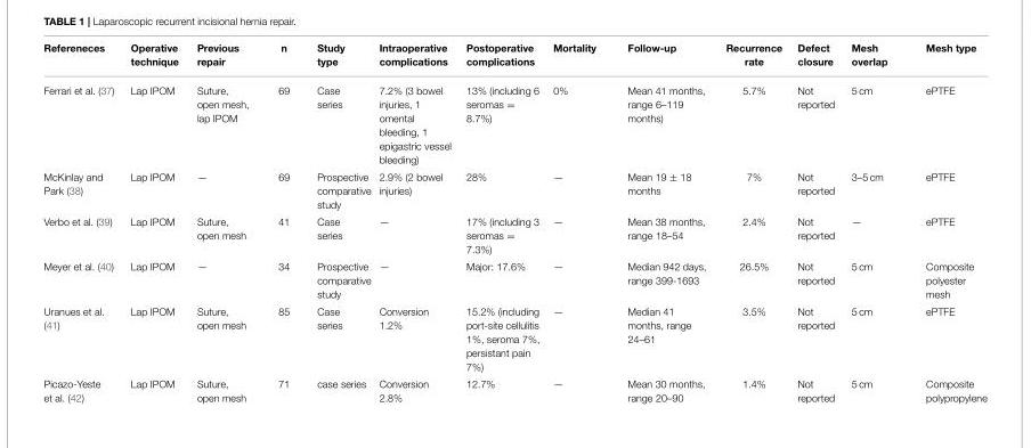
<table><thead><tr><td>Refereneces</td><td>Operative technique</td><td>Previous repair</td><td>n</td><td>Study type</td><td>Intraoperative complications</td><td>Postoperative complications</td><td>Mortality</td><td>Follow-up</td><td>Recurrence rate</td><td>Defect closure</td><td>Mesh overlap</td><td>Mesh type</td></tr></thead><tbody><tr><td>Ferrari et al. (37)</td><td>Lap IPOM</td><td>Suture, open mesh, lap IPOM</td><td>69</td><td>Case series</td><td>7.2% (3 bowel injuries, 1 omental bleeding, 1 epigastric vessel bleeding)</td><td>13% (including 6 seromas = 8.7%)</td><td>0%</td><td>Mean 41 months, range 6–119 months)</td><td>5.7%</td><td>Not reported</td><td>5 cm</td><td>ePTFE</td></tr><tr><td>McKinlay and Park (38)</td><td>Lap IPOM</td><td>—</td><td>69</td><td>Prospective comparative study</td><td>2.9% (2 bowel injuries)</td><td>28%</td><td>—</td><td>Mean 19 ± 18 months</td><td>7%</td><td>Not reported</td><td>3–5 cm</td><td>ePTFE</td></tr><tr><td>Verbo et al. (39)</td><td>Lap IPOM</td><td>Suture, open mesh</td><td>41</td><td>Case series</td><td>—</td><td>17% (including 3 seromas = 7.3%)</td><td>—</td><td>Mean 38 months, range 18–54</td><td>2.4%</td><td>Not reported</td><td>—</td><td>ePTFE</td></tr><tr><td>Meyer et al. (40)</td><td>Lap IPOM</td><td>—</td><td>34</td><td>Prospective comparative study</td><td>—</td><td>Major: 17.6%</td><td>—</td><td>Median 942 days, range 399-1693</td><td>26.5%</td><td>Not reported</td><td>5 cm</td><td>Composite polyester mesh</td></tr><tr><td>Uranues et al. (41)</td><td>Lap IPOM</td><td>Suture, open mesh</td><td>85</td><td>Case series</td><td>Conversion 1.2%</td><td>15.2% (including port-site cellulitis 1%, seroma 7%, persistant pain 7%)</td><td>—</td><td>Median 41 months, range 24–61</td><td>3.5%</td><td>Not reported</td><td>5 cm</td><td>ePTFE</td></tr><tr><td>Picazo-Yeste et al. (42)</td><td>Lap IPOM</td><td>Suture, open mesh</td><td>71</td><td>case series</td><td>Conversion 2.8%</td><td>12.7%</td><td>—</td><td>Mean 30 months, range 20–90</td><td>1.4%</td><td>Not reported</td><td>5 cm</td><td>Composite polypropylene</td></tr></tbody></table>